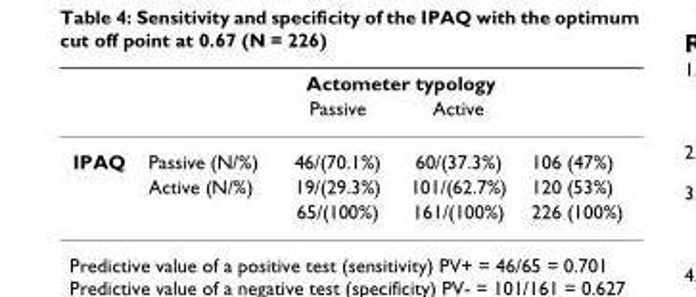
<table><thead><tr><td rowspan="2"></td><td rowspan="2"></td><td colspan="2">Actometer typology</td><td rowspan="2"></td></tr><tr><td>Passive</td><td>Active</td></tr></thead><tbody><tr><td rowspan="3">IPAQ</td><td>Passive (N/%)</td><td>46/(70.1%)</td><td>60/(37.3%)</td><td>106 (47%)</td></tr><tr><td>Active (N/%)</td><td>19/(29.3%)</td><td>101/(62.7%)</td><td>120 (53%)</td></tr><tr><td></td><td>65/(100%)</td><td>161/(100%)</td><td>226 (100%)</td></tr></tbody></table>